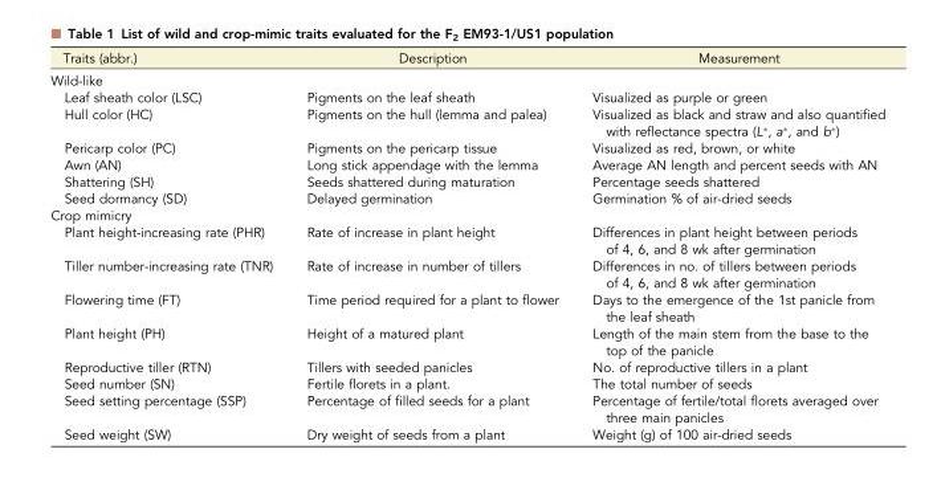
<table><thead><tr><td>Traits (abbr.)</td><td>Description</td><td>Measurement</td></tr></thead><tbody><tr><td colspan="3">Wild-like</td></tr><tr><td>Leaf sheath color (LSC)</td><td>Pigments on the leaf sheath</td><td>Visualized as purple or green</td></tr><tr><td>Hull color (HC)</td><td>Pigments on the hull (lemma and palea)</td><td>Visualized as black and straw and also quantified with reflectance spectra (L*, a*, and b*)</td></tr><tr><td>Pericarp color (PC)</td><td>Pigments on the pericarp tissue</td><td>Visualized as red, brown, or white</td></tr><tr><td>Awn (AN)</td><td>Long stick appendage with the lemma</td><td>Average AN length and percent seeds with AN</td></tr><tr><td>Shattering (SH)</td><td>Seeds shattered during maturation</td><td>Percentage seeds shattered</td></tr><tr><td>Seed dormancy (SD)</td><td>Delayed germination</td><td>Germination % of air-dried seeds</td></tr><tr><td colspan="3">Crop mimicry</td></tr><tr><td>Plant height-increasing rate (PHR)</td><td>Rate of increase in plant height</td><td>Differences in plant height between periods of 4, 6, and 8 wk after germination</td></tr><tr><td>Tiller number-increasing rate (TNR)</td><td>Rate of increase in number of tillers</td><td>Differences in no. of tillers between periods of 4, 6, and 8 wk after germination</td></tr><tr><td>Flowering time (FT)</td><td>Time period required for a plant to flower</td><td>Days to the emergence of the 1st panicle from the leaf sheath</td></tr><tr><td>Plant height (PH)</td><td>Height of a matured plant</td><td>Length of the main stem from the base to the top of the panicle</td></tr><tr><td>Reproductive tiller (RTN)</td><td>Tillers with seeded panicles</td><td>No. of reproductive tillers in a plant</td></tr><tr><td>Seed number (SN)</td><td>Fertile florets in a plant.</td><td>The total number of seeds</td></tr><tr><td>Seed setting percentage (SSP)</td><td>Percentage of filled seeds for a plant</td><td>Percentage of fertile/total florets averaged over three main panicles</td></tr><tr><td>Seed weight (SW)</td><td>Dry weight of seeds from a plant</td><td>Weight (g) of 100 air-dried seeds</td></tr></tbody></table>